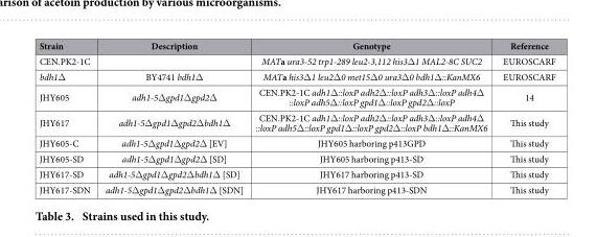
<table><thead><tr><td>Strain</td><td>Description</td><td>Genotype</td><td>Reference</td></tr></thead><tbody><tr><td>CEN.PK2-1C</td><td></td><td>MATa ura3-52 trp1-289 leu2-3,112 his3Δ 1 MAL2-8C SUC2</td><td>EUROSCARF</td></tr><tr><td>bdh1Δ</td><td>BY4741 bdh1Δ</td><td>MATa his3Δ 1 leu2Δ 0 met15Δ 0 ura3Δ 0 bdh1Δ ::KanMX6</td><td>EUROSCARF</td></tr><tr><td>JHY605</td><td>adh1-5Δ gpd1Δ gpd2Δ</td><td>CEN.PK2-1C adh1Δ ::loxP adh2Δ ::loxP adh3Δ ::loxP adh4Δ ::loxP adh5Δ ::loxP gpd1Δ ::loxP gpd2Δ ::loxP</td><td>14</td></tr><tr><td>JHY617</td><td>adh1-5Δ gpd1Δ gpd2Δ bdh1Δ</td><td>CEN.PK2-1C adh1Δ ::loxP adh2Δ ::loxP adh3Δ ::loxP adh4Δ ::loxP adh5Δ ::loxP gpd1Δ ::loxP gpd2Δ ::loxP bdh1Δ ::KanMX6</td><td>This study</td></tr><tr><td>JHY605-C</td><td>adh1-5Δ gpd1Δ gpd2Δ [EV]</td><td>JHY605 harboring p413GPD</td><td>This study</td></tr><tr><td>JHY605-SD</td><td>adh1-5Δ gpd1Δ gpd2Δ [SD]</td><td>JHY605 harboring p413-SD</td><td>This study</td></tr><tr><td>JHY617-SD</td><td>adh1-5Δ gpd1Δ gpd2Δ bdh1Δ [SD]</td><td>JHY617 harboring p413-SD</td><td>This study</td></tr><tr><td>JHY617-SDN</td><td>adh1-5Δ gpd1Δ gpd2Δ bdh1Δ [SDN]</td><td>JHY617 harboring p413-SDN</td><td>This study</td></tr></tbody></table>